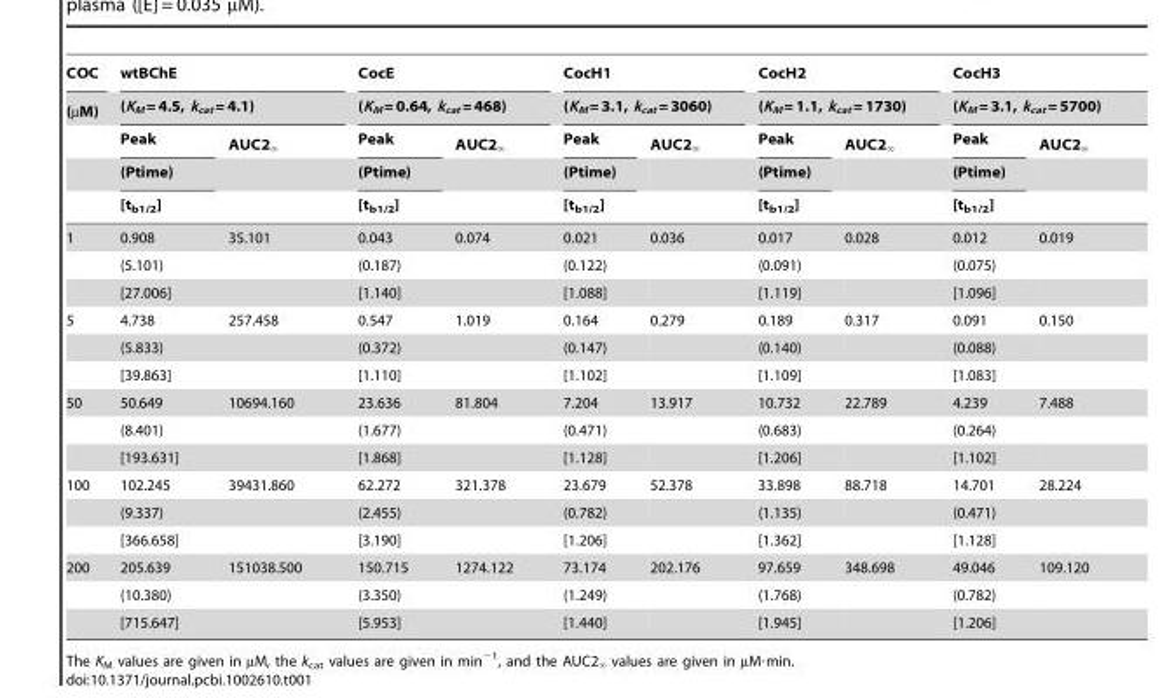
<table><thead><tr><td rowspan="5">COC (µM)</td><td rowspan="2" colspan="2">wtBChE (K<sub>M</sub> = 4.5, k<sub>cat</sub> = 4.1)</td><td rowspan="2" colspan="2">CocE (K<sub>M</sub> = 0.64, k<sub>cat</sub> = 468)</td><td rowspan="2" colspan="2">CocH1 (K<sub>M</sub> = 3.1, k<sub>cat</sub> = 3060)</td><td rowspan="2" colspan="2">CocH2 (K<sub>M</sub> = 1.1, k<sub>cat</sub> = 1730)</td><td rowspan="2" colspan="2">CocH3 (K<sub>M</sub> = 3.1, k<sub>cat</sub> = 5700)</td></tr><tr></tr><tr><td rowspan="3">Peak (Ptime) [t<sub>b1/2</sub>]</td><td rowspan="3">AUC2‘</td><td rowspan="3">Peak (Ptime) [t<sub>b1/2</sub>]</td><td rowspan="3">AUC2‘</td><td rowspan="3">Peak (Ptime) [t<sub>b1/2</sub>]</td><td rowspan="3">AUC2‘</td><td rowspan="3">Peak (Ptime) [t<sub>b1/2</sub>]</td><td rowspan="3">AUC2‘</td><td rowspan="3">Peak (Ptime) [t<sub>b1/2</sub>]</td><td rowspan="3">AUC2‘</td></tr><tr></tr><tr></tr></thead><tbody><tr><td rowspan="3">1</td><td>0.908</td><td>35.101</td><td>0.043</td><td>0.074</td><td>0.021</td><td>0.036</td><td>0.017</td><td>0.028</td><td>0.012</td><td>0.019</td></tr><tr><td>(5.101)</td><td></td><td>(0.187)</td><td></td><td>(0.122)</td><td></td><td>(0.091)</td><td></td><td>(0.075)</td><td></td></tr><tr><td>[27.006]</td><td></td><td>[1.140]</td><td></td><td>[1.088]</td><td></td><td>[1.119]</td><td></td><td>[1.096]</td><td></td></tr><tr><td rowspan="3">5</td><td>4.738</td><td>257.458</td><td>0.547</td><td>1.019</td><td>0.164</td><td>0.279</td><td>0.189</td><td>0.317</td><td>0.091</td><td>0.150</td></tr><tr><td>(5.833)</td><td></td><td>(0.372)</td><td></td><td>(0.147)</td><td></td><td>(0.140)</td><td></td><td>(0.088)</td><td></td></tr><tr><td>[39.863]</td><td></td><td>[1.110]</td><td></td><td>[1.102]</td><td></td><td>[1.109]</td><td></td><td>[1.083]</td><td></td></tr><tr><td rowspan="3">50</td><td>50.649</td><td>10694.160</td><td>23.636</td><td>81.804</td><td>7.204</td><td>13.917</td><td>10.732</td><td>22.789</td><td>4.239</td><td>7.488</td></tr><tr><td>(8.401)</td><td></td><td>(1.677)</td><td></td><td>(0.471)</td><td></td><td>(0.683)</td><td></td><td>(0.264)</td><td></td></tr><tr><td>[193.631]</td><td></td><td>[1.868]</td><td></td><td>[1.128]</td><td></td><td>[1.206]</td><td></td><td>[1.102]</td><td></td></tr><tr><td rowspan="3">100</td><td>102.245</td><td>39431.860</td><td>62.272</td><td>321.378</td><td>23.679</td><td>52.378</td><td>33.898</td><td>88.718</td><td>14.701</td><td>28.224</td></tr><tr><td>(9.337)</td><td></td><td>(2.455)</td><td></td><td>(0.782)</td><td></td><td>(1.135)</td><td></td><td>(0.471)</td><td></td></tr><tr><td>[366.658]</td><td></td><td>[3.190]</td><td></td><td>[1.206]</td><td></td><td>[1.362]</td><td></td><td>[1.128]</td><td></td></tr><tr><td rowspan="3">200</td><td>205.639</td><td>151038.500</td><td>150.715</td><td>1274.122</td><td>73.174</td><td>202.176</td><td>97.659</td><td>348.698</td><td>49.046</td><td>109.120</td></tr><tr><td>(10.380)</td><td></td><td>(3.350)</td><td></td><td>(1.249)</td><td></td><td>(1.768)</td><td></td><td>(0.782)</td><td></td></tr><tr><td>[715.647]</td><td></td><td>[5.953]</td><td></td><td>[1.440]</td><td></td><td>[1.945]</td><td></td><td>[1.206]</td><td></td></tr></tbody></table>